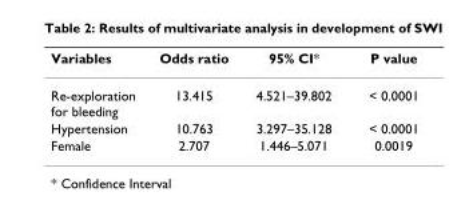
<table><thead><tr><td>Variables</td><td>Odds ratio</td><td>95% CI*</td><td>P value</td></tr></thead><tbody><tr><td>Re-exploration for bleeding</td><td>13.415</td><td>4.521–39.802</td><td>&lt; 0.0001</td></tr><tr><td>Hypertension</td><td>10.763</td><td>3.297–35.128</td><td>&lt; 0.0001</td></tr><tr><td>Female</td><td>2.707</td><td>1.446–5.071</td><td>0.0019</td></tr></tbody></table>